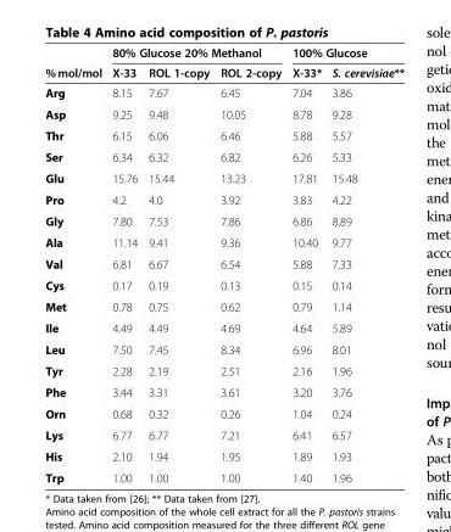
<table><thead><tr><td rowspan="2">% mol/mol</td><td colspan="3">80% Glucose 20% Methanol</td><td colspan="2">100% Glucose</td></tr><tr><td>X-33</td><td>ROL 1-copy</td><td>ROL 2-copy</td><td>X-33*</td><td>S. cerevisiae**</td></tr></thead><tbody><tr><td>Arg</td><td>8.15</td><td>7.67</td><td>6.45</td><td>7.04</td><td>3.86</td></tr><tr><td>Asp</td><td>9.25</td><td>9.48</td><td>10.05</td><td>8.78</td><td>9.28</td></tr><tr><td>Thr</td><td>6.15</td><td>6.06</td><td>6.46</td><td>5.88</td><td>5.57</td></tr><tr><td>Ser</td><td>6.34</td><td>6.32</td><td>6.82</td><td>6.26</td><td>5.33</td></tr><tr><td>Glu</td><td>15.76</td><td>15.44</td><td>13.23</td><td>17.81</td><td>15.48</td></tr><tr><td>Pro</td><td>4.2</td><td>4.0</td><td>3.92</td><td>3.83</td><td>4.22</td></tr><tr><td>Gly</td><td>7.80</td><td>7.53</td><td>7.86</td><td>6.86</td><td>8.89</td></tr><tr><td>Ala</td><td>11.14</td><td>9.41</td><td>9.36</td><td>10.40</td><td>9.77</td></tr><tr><td>Val</td><td>6.81</td><td>6.67</td><td>6.54</td><td>5.88</td><td>7.33</td></tr><tr><td>Cys</td><td>0.17</td><td>0.19</td><td>0.13</td><td>0.15</td><td>0.14</td></tr><tr><td>Met</td><td>0.78</td><td>0.75</td><td>0.62</td><td>0.79</td><td>1.14</td></tr><tr><td>Ile</td><td>4.49</td><td>4.49</td><td>4.69</td><td>4.64</td><td>5.89</td></tr><tr><td>Leu</td><td>7.50</td><td>7.45</td><td>8.34</td><td>6.96</td><td>8.01</td></tr><tr><td>Tyr</td><td>2.28</td><td>2.19</td><td>2.51</td><td>2.16</td><td>1.96</td></tr><tr><td>Phe</td><td>3.44</td><td>3.31</td><td>3.61</td><td>3.20</td><td>3.76</td></tr><tr><td>Orn</td><td>0.68</td><td>0.32</td><td>0.26</td><td>1.04</td><td>0.24</td></tr><tr><td>Lys</td><td>6.77</td><td>6.77</td><td>7.21</td><td>6.41</td><td>6.57</td></tr><tr><td>His</td><td>2.10</td><td>1.94</td><td>1.95</td><td>1.89</td><td>1.93</td></tr><tr><td>Trp</td><td>1.00</td><td>1.00</td><td>1.00</td><td>1.40</td><td>1.96</td></tr></tbody></table>